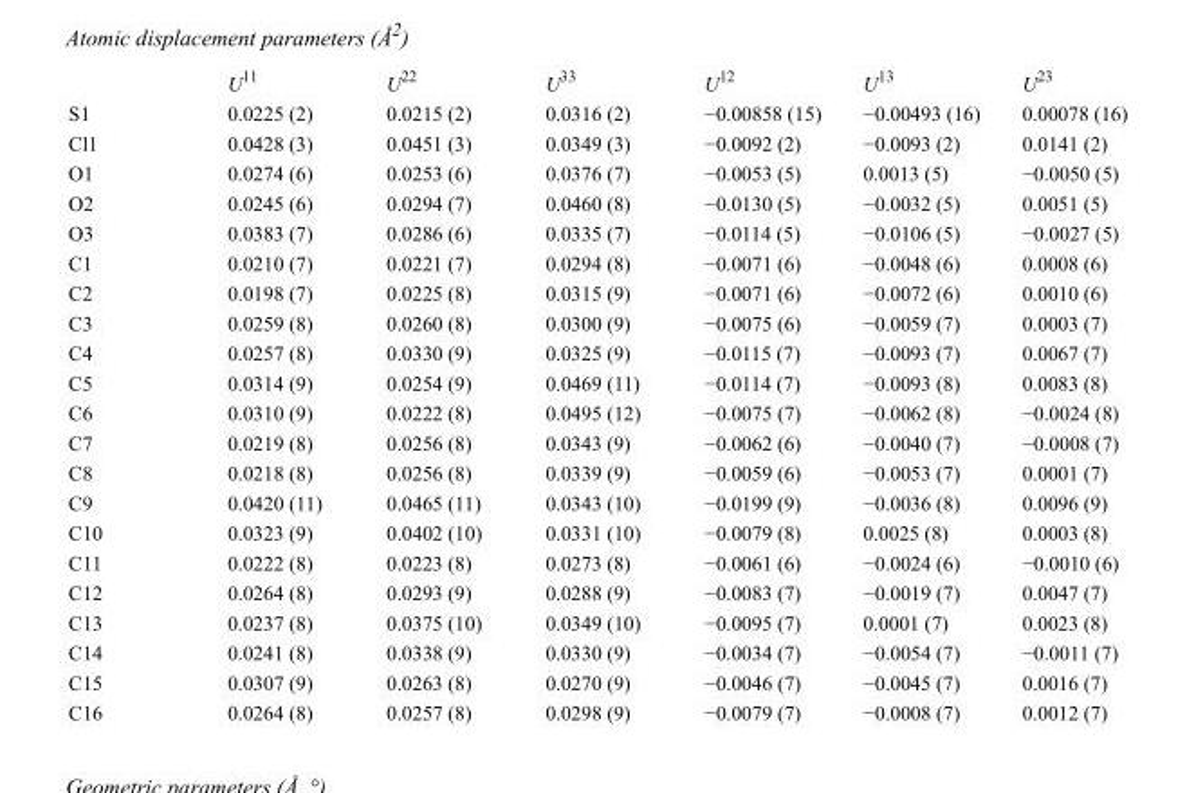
<table><thead><tr><td></td><td>U<sup>11</sup></td><td>U<sup>22</sup></td><td>U<sup>33</sup></td><td>U<sup>12</sup></td><td>U<sup>13</sup></td><td>U<sup>23</sup></td></tr></thead><tbody><tr><td>S1</td><td>0.0225 (2)</td><td>0.0215 (2)</td><td>0.0316 (2)</td><td>−0.00858 (15)</td><td>−0.00493 (16)</td><td>0.00078 (16)</td></tr><tr><td>Cl1</td><td>0.0428 (3)</td><td>0.0451 (3)</td><td>0.0349 (3)</td><td>−0.0092 (2)</td><td>−0.0093 (2)</td><td>0.0141 (2)</td></tr><tr><td>O1</td><td>0.0274 (6)</td><td>0.0253 (6)</td><td>0.0376 (7)</td><td>−0.0053 (5)</td><td>0.0013 (5)</td><td>−0.0050 (5)</td></tr><tr><td>O2</td><td>0.0245 (6)</td><td>0.0294 (7)</td><td>0.0460 (8)</td><td>−0.0130 (5)</td><td>−0.0032 (5)</td><td>0.0051 (5)</td></tr><tr><td>O3</td><td>0.0383 (7)</td><td>0.0286 (6)</td><td>0.0335 (7)</td><td>−0.0114 (5)</td><td>−0.0106 (5)</td><td>−0.0027 (5)</td></tr><tr><td>C1</td><td>0.0210 (7)</td><td>0.0221 (7)</td><td>0.0294 (8)</td><td>−0.0071 (6)</td><td>−0.0048 (6)</td><td>0.0008 (6)</td></tr><tr><td>C2</td><td>0.0198 (7)</td><td>0.0225 (8)</td><td>0.0315 (9)</td><td>−0.0071 (6)</td><td>−0.0072 (6)</td><td>0.0010 (6)</td></tr><tr><td>C3</td><td>0.0259 (8)</td><td>0.0260 (8)</td><td>0.0300 (9)</td><td>−0.0075 (6)</td><td>−0.0059 (7)</td><td>0.0003 (7)</td></tr><tr><td>C4</td><td>0.0257 (8)</td><td>0.0330 (9)</td><td>0.0325 (9)</td><td>−0.0115 (7)</td><td>−0.0093 (7)</td><td>0.0067 (7)</td></tr><tr><td>C5</td><td>0.0314 (9)</td><td>0.0254 (9)</td><td>0.0469 (11)</td><td>−0.0114 (7)</td><td>−0.0093 (8)</td><td>0.0083 (8)</td></tr><tr><td>C6</td><td>0.0310 (9)</td><td>0.0222 (8)</td><td>0.0495 (12)</td><td>−0.0075 (7)</td><td>−0.0062 (8)</td><td>−0.0024 (8)</td></tr><tr><td>C7</td><td>0.0219 (8)</td><td>0.0256 (8)</td><td>0.0343 (9)</td><td>−0.0062 (6)</td><td>−0.0040 (7)</td><td>−0.0008 (7)</td></tr><tr><td>C8</td><td>0.0218 (8)</td><td>0.0256 (8)</td><td>0.0339 (9)</td><td>−0.0059 (6)</td><td>−0.0053 (7)</td><td>0.0001 (7)</td></tr><tr><td>C9</td><td>0.0420 (11)</td><td>0.0465 (11)</td><td>0.0343 (10)</td><td>−0.0199 (9)</td><td>−0.0036 (8)</td><td>0.0096 (9)</td></tr><tr><td>C10</td><td>0.0323 (9)</td><td>0.0402 (10)</td><td>0.0331 (10)</td><td>−0.0079 (8)</td><td>0.0025 (8)</td><td>0.0003 (8)</td></tr><tr><td>C11</td><td>0.0222 (8)</td><td>0.0223 (8)</td><td>0.0273 (8)</td><td>−0.0061 (6)</td><td>−0.0024 (6)</td><td>−0.0010 (6)</td></tr><tr><td>C12</td><td>0.0264 (8)</td><td>0.0293 (9)</td><td>0.0288 (9)</td><td>−0.0083 (7)</td><td>−0.0019 (7)</td><td>0.0047 (7)</td></tr><tr><td>C13</td><td>0.0237 (8)</td><td>0.0375 (10)</td><td>0.0349 (10)</td><td>−0.0095 (7)</td><td>0.0001 (7)</td><td>0.0023 (8)</td></tr><tr><td>C14</td><td>0.0241 (8)</td><td>0.0338 (9)</td><td>0.0330 (9)</td><td>−0.0034 (7)</td><td>−0.0054 (7)</td><td>−0.0011 (7)</td></tr><tr><td>C15</td><td>0.0307 (9)</td><td>0.0263 (8)</td><td>0.0270 (9)</td><td>−0.0046 (7)</td><td>−0.0045 (7)</td><td>0.0016 (7)</td></tr><tr><td>C16</td><td>0.0264 (8)</td><td>0.0257 (8)</td><td>0.0298 (9)</td><td>−0.0079 (7)</td><td>−0.0008 (7)</td><td>0.0012 (7)</td></tr></tbody></table>